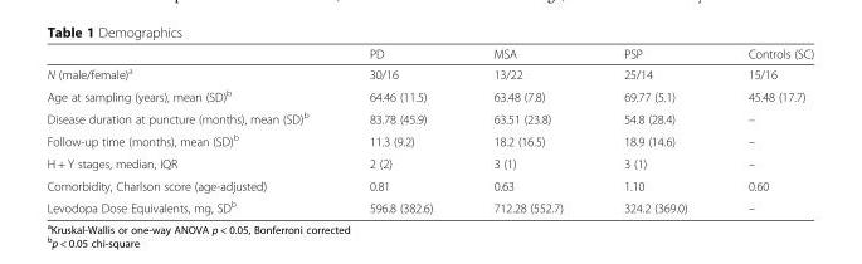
<table><thead><tr><td></td><td>PD</td><td>MSA</td><td>PSP</td><td>Controls (SC)</td></tr></thead><tbody><tr><td>N (male/female)<sup>a</sup></td><td>30/16</td><td>13/22</td><td>25/14</td><td>15/16</td></tr><tr><td>Age at sampling (years), mean (SD)<sup>b</sup></td><td>64.46 (11.5)</td><td>63.48 (7.8)</td><td>69.77 (5.1)</td><td>45.48 (17.7)</td></tr><tr><td>Disease duration at puncture (months), mean (SD)<sup>b</sup></td><td>83.78 (45.9)</td><td>63.51 (23.8)</td><td>54.8 (28.4)</td><td>–</td></tr><tr><td>Follow-up time (months), mean (SD)<sup>b</sup></td><td>11.3 (9.2)</td><td>18.2 (16.5)</td><td>18.9 (14.6)</td><td>–</td></tr><tr><td>H + Y stages, median, IQR</td><td>2 (2)</td><td>3 (1)</td><td>3 (1)</td><td>–</td></tr><tr><td>Comorbidity, Charlson score (age-adjusted)</td><td>0.81</td><td>0.63</td><td>1.10</td><td>0.60</td></tr><tr><td>Levodopa Dose Equivalents, mg, SD<sup>b</sup></td><td>596.8 (382.6)</td><td>712.28 (552.7)</td><td>324.2 (369.0)</td><td>–</td></tr></tbody></table>